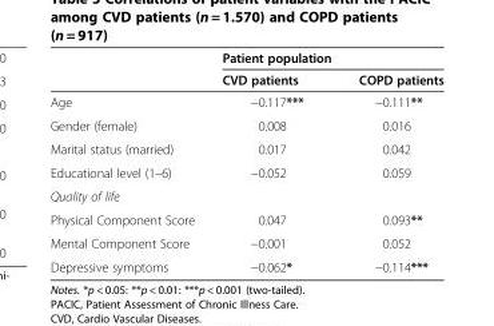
<table><thead><tr><td rowspan="2"></td><td colspan="2">Patient population</td></tr><tr><td>CVD patients</td><td>COPD patients</td></tr></thead><tbody><tr><td>Age</td><td>−0.117***</td><td>−0.111**</td></tr><tr><td>Gender (female)</td><td>0.008</td><td>0.016</td></tr><tr><td>Marital status (married)</td><td>0.017</td><td>0.042</td></tr><tr><td>Educational level (1–6)</td><td>−0.052</td><td>0.059</td></tr><tr><td colspan="3">Quality of life</td></tr><tr><td>Physical Component Score</td><td>0.047</td><td>0.093**</td></tr><tr><td>Mental Component Score</td><td>−0.001</td><td>0.052</td></tr><tr><td>Depressive symptoms</td><td>−0.062*</td><td>−0.114***</td></tr></tbody></table>